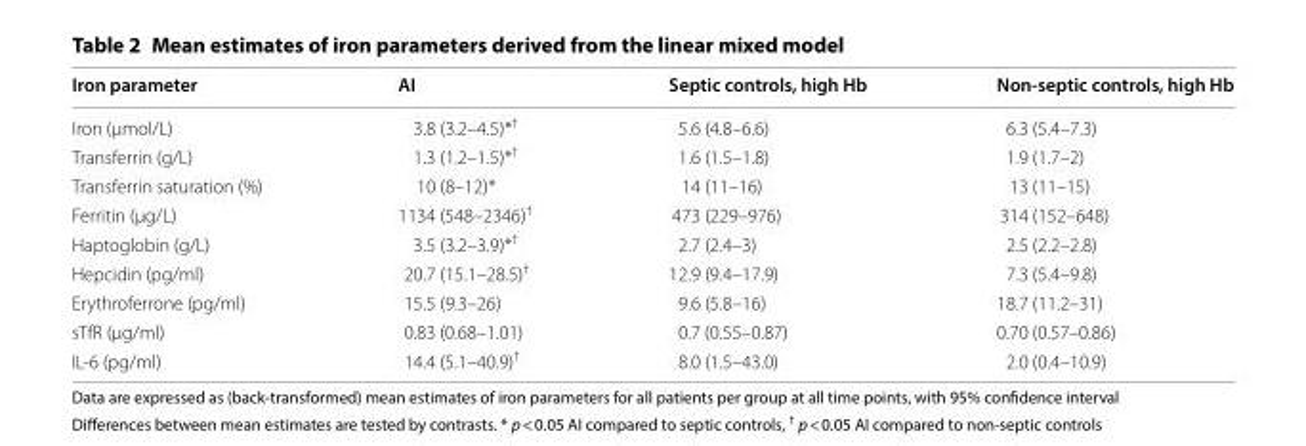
<table><thead><tr><td>Iron parameter</td><td>AI</td><td>Septic controls, high Hb</td><td>Non‑septic controls, high Hb</td></tr></thead><tbody><tr><td>Iron (µmol/L)</td><td>3.8 (3.2–4.5)*<sup>†</sup></td><td>5.6 (4.8–6.6)</td><td>6.3 (5.4–7.3)</td></tr><tr><td>Transferrin (g/L)</td><td>1.3 (1.2–1.5)*<sup>†</sup></td><td>1.6 (1.5–1.8)</td><td>1.9 (1.7–2)</td></tr><tr><td>Transferrin saturation (%)</td><td>10 (8–12)*</td><td>14 (11–16)</td><td>13 (11–15)</td></tr><tr><td>Ferritin (µg/L)</td><td>1134 (548–2346)<sup>†</sup></td><td>473 (229–976)</td><td>314 (152–648)</td></tr><tr><td>Haptoglobin (g/L)</td><td>3.5 (3.2–3.9)*<sup>†</sup></td><td>2.7 (2.4–3)</td><td>2.5 (2.2–2.8)</td></tr><tr><td>Hepcidin (pg/ml)</td><td>20.7 (15.1–28.5)<sup>†</sup></td><td>12.9 (9.4–17.9)</td><td>7.3 (5.4–9.8)</td></tr><tr><td>Erythroferrone (pg/ml)</td><td>15.5 (9.3–26)</td><td>9.6 (5.8–16)</td><td>18.7 (11.2–31)</td></tr><tr><td>sTfR (µg/ml)</td><td>0.83 (0.68–1.01)</td><td>0.7 (0.55–0.87)</td><td>0.70 (0.57–0.86)</td></tr><tr><td>IL-6 (pg/ml)</td><td>14.4 (5.1–40.9)<sup>†</sup></td><td>8.0 (1.5–43.0)</td><td>2.0 (0.4–10.9)</td></tr></tbody></table>